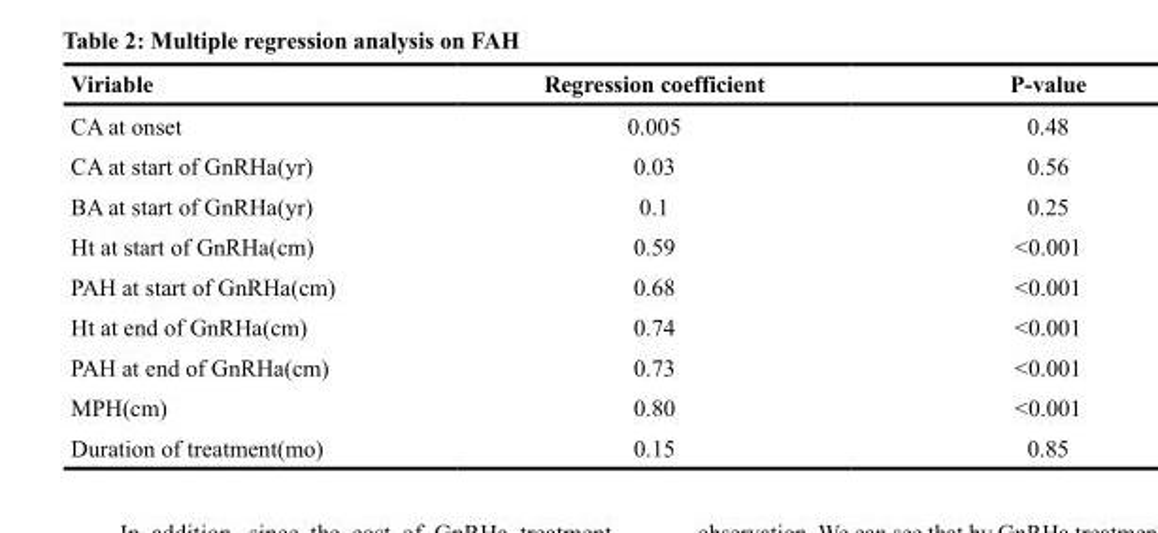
<table><thead><tr><td>Viriable</td><td>Regression coefficient</td><td>P-value</td></tr></thead><tbody><tr><td>CA at onset</td><td>0.005</td><td>0.48</td></tr><tr><td>CA at start of GnRHa(yr)</td><td>0.03</td><td>0.56</td></tr><tr><td>BA at start of GnRHa(yr)</td><td>0.1</td><td>0.25</td></tr><tr><td>Ht at start of GnRHa(cm)</td><td>0.59</td><td>&lt;0.001</td></tr><tr><td>PAH at start of GnRHa(cm)</td><td>0.68</td><td>&lt;0.001</td></tr><tr><td>Ht at end of GnRHa(cm)</td><td>0.74</td><td>&lt;0.001</td></tr><tr><td>PAH at end of GnRHa(cm)</td><td>0.73</td><td>&lt;0.001</td></tr><tr><td>MPH(cm)</td><td>0.80</td><td>&lt;0.001</td></tr><tr><td>Duration of treatment(mo)</td><td>0.15</td><td>0.85</td></tr></tbody></table>